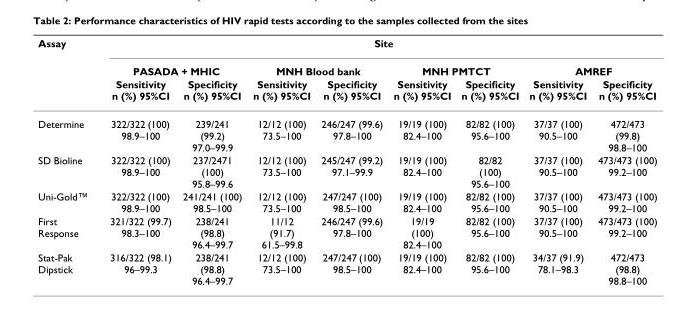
<table><thead><tr><td rowspan="3">Assay</td><td colspan="8">Site</td></tr><tr><td colspan="2">PASADA + MHIC</td><td colspan="2">MNH Blood bank</td><td colspan="2">MNH PMTCT</td><td colspan="2">AMREF</td></tr><tr><td>Sensitivity n (%) 95%CI</td><td>Specificity n (%) 95%CI</td><td>Sensitivity n (%) 95%CI</td><td>Specificity n (%) 95%CI</td><td>Sensitivity n (%) 95%CI</td><td>Specificity n (%) 95%CI</td><td>Sensitivity n (%) 95%CI</td><td>Specificity n (%) 95%CI</td></tr></thead><tbody><tr><td>Determine</td><td>322/322 (100) 98.9–100</td><td>239/241 (99.2) 97.0–99.9</td><td>12/12 (100) 73.5–100</td><td>246/247 (99.6) 97.8–100</td><td>19/19 (100) 82.4–100</td><td>82/82 (100) 95.6–100</td><td>37/37 (100) 90.5–100</td><td>472/473 (99.8) 98.8–100</td></tr><tr><td>SD Bioline</td><td>322/322 (100) 98.9–100</td><td>237/2471 (100) 95.8–99.6</td><td>12/12 (100) 73.5–100</td><td>245/247 (99.2) 97.1–99.9</td><td>19/19 (100) 82.4–100</td><td>82/82 (100) 95.6–100</td><td>37/37 (100) 90.5–100</td><td>473/473 (100) 99.2–100</td></tr><tr><td>Uni-Gold™</td><td>322/322 (100) 98.9–100</td><td>241/241 (100) 98.5–100</td><td>12/12 (100) 73.5–100</td><td>247/247 (100) 98.5–100</td><td>19/19 (100) 82.4–100</td><td>82/82 (100) 95.6–100</td><td>37/37 (100) 90.5–100</td><td>473/473 (100) 99.2–100</td></tr><tr><td>First Response</td><td>321/322 (99.7) 98.3–100</td><td>238/241 (98.8) 96.4–99.7</td><td>11/12 (91.7) 61.5–99.8</td><td>246/247 (99.6) 97.8–100</td><td>19/19 (100) 82.4–100</td><td>82/82 (100) 95.6–100</td><td>37/37 (100) 90.5–100</td><td>473/473 (100) 99.2–100</td></tr><tr><td>Stat-Pak Dipstick</td><td>316/322 (98.1) 96–99.3</td><td>238/241 (98.8) 96.4–99.7</td><td>12/12 (100) 73.5–100</td><td>247/247 (100) 98.5–100</td><td>19/19 (100) 82.4–100</td><td>82/82 (100) 95.6–100</td><td>34/37 (91.9) 78.1–98.3</td><td>472/473 (98.8) 98.8–100</td></tr></tbody></table>